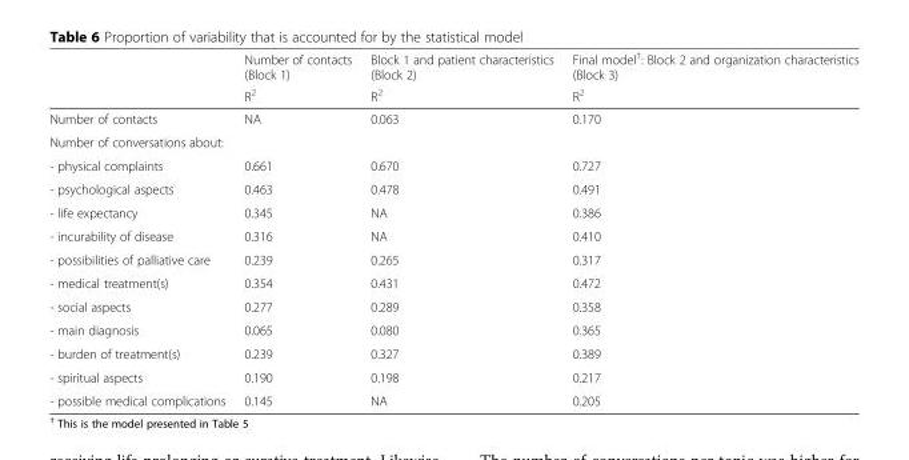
<table><thead><tr><td rowspan="2"></td><td rowspan="2">Number of contacts (Block 1) R<sup>2</sup></td><td rowspan="2">Block 1 and patient characteristics (Block 2) R<sup>2</sup></td><td rowspan="2">Final model<sup>†</sup>: Block 2 and organization characteristics (Block 3) R<sup>2</sup></td></tr><tr></tr></thead><tbody><tr><td>Number of contacts</td><td>NA</td><td>0.063</td><td>0.170</td></tr><tr><td colspan="4">Number of conversations about:</td></tr><tr><td>- physical complaints</td><td>0.661</td><td>0.670</td><td>0.727</td></tr><tr><td>- psychological aspects</td><td>0.463</td><td>0.478</td><td>0.491</td></tr><tr><td>- life expectancy</td><td>0.345</td><td>NA</td><td>0.386</td></tr><tr><td>- incurability of disease</td><td>0.316</td><td>NA</td><td>0.410</td></tr><tr><td>- possibilities of palliative care</td><td>0.239</td><td>0.265</td><td>0.317</td></tr><tr><td>- medical treatment(s)</td><td>0.354</td><td>0.431</td><td>0.472</td></tr><tr><td>- social aspects</td><td>0.277</td><td>0.289</td><td>0.358</td></tr><tr><td>- main diagnosis</td><td>0.065</td><td>0.080</td><td>0.365</td></tr><tr><td>- burden of treatment(s)</td><td>0.239</td><td>0.327</td><td>0.389</td></tr><tr><td>- spiritual aspects</td><td>0.190</td><td>0.198</td><td>0.217</td></tr><tr><td>- possible medical complications</td><td>0.145</td><td>NA</td><td>0.205</td></tr></tbody></table>